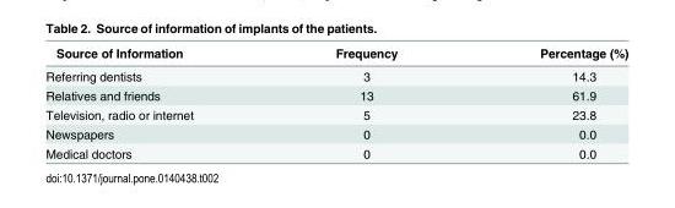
<table><thead><tr><td>Source of Information</td><td>Frequency</td><td>Percentage (%)</td></tr></thead><tbody><tr><td>Referring dentists</td><td>3</td><td>14.3</td></tr><tr><td>Relatives and friends</td><td>13</td><td>61.9</td></tr><tr><td>Television, radio or internet</td><td>5</td><td>23.8</td></tr><tr><td>Newspapers</td><td>0</td><td>0.0</td></tr><tr><td>Medical doctors</td><td>0</td><td>0.0</td></tr></tbody></table>